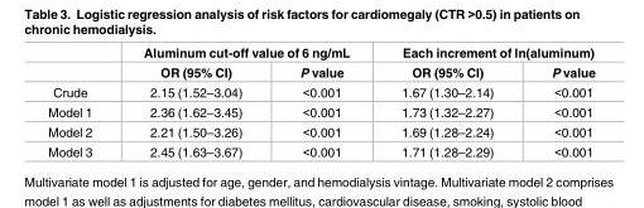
<table><thead><tr><td rowspan="2"></td><td colspan="2">Aluminum cut-off value of 6 ng/mL</td><td colspan="2">Each increment of ln(aluminum)</td></tr><tr><td>OR (95% CI)</td><td>P value</td><td>OR (95% CI)</td><td>P value</td></tr></thead><tbody><tr><td>Crude</td><td>2.15 (1.52–3.04)</td><td>&lt;0.001</td><td>1.67 (1.30–2.14)</td><td>&lt;0.001</td></tr><tr><td>Model 1</td><td>2.36 (1.62–3.45)</td><td>&lt;0.001</td><td>1.73 (1.32–2.27)</td><td>&lt;0.001</td></tr><tr><td>Model 2</td><td>2.21 (1.50–3.26)</td><td>&lt;0.001</td><td>1.69 (1.28–2.24)</td><td>&lt;0.001</td></tr><tr><td>Model 3</td><td>2.45 (1.63–3.67)</td><td>&lt;0.001</td><td>1.71 (1.28–2.29)</td><td>&lt;0.001</td></tr></tbody></table>